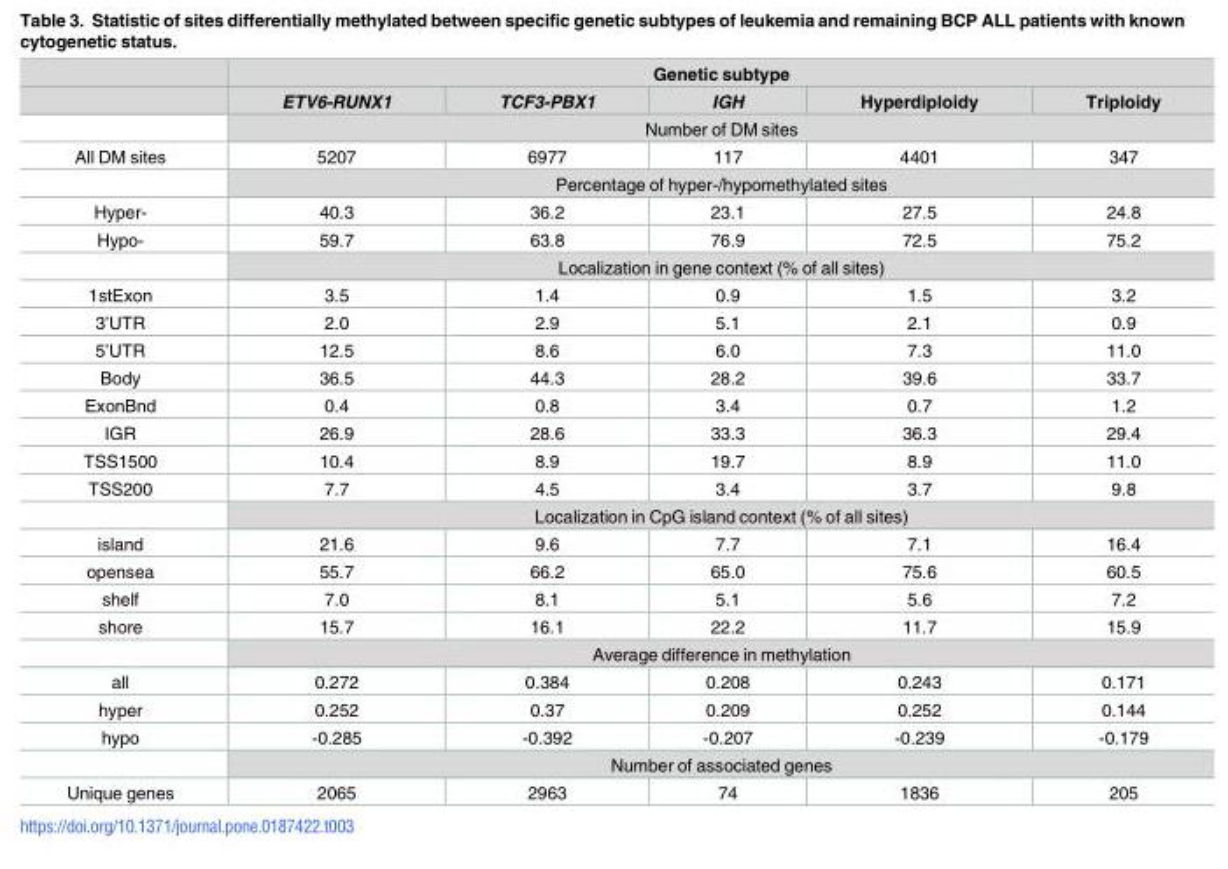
<table><thead><tr><td rowspan="2"></td><td colspan="5">Genetic subtype</td></tr><tr><td>ETV6-RUNX1</td><td>TCF3-PBX1</td><td>IGH</td><td>Hyperdiploidy</td><td>Triploidy</td></tr></thead><tbody><tr><td></td><td colspan="5">Number of DM sites</td></tr><tr><td rowspan="2">All DM sites</td><td>5207</td><td>6977</td><td>117</td><td>4401</td><td>347</td></tr><tr><td colspan="5">Percentage of hyper-/hypomethylated sites</td></tr><tr><td>Hyper-</td><td>40.3</td><td>36.2</td><td>23.1</td><td>27.5</td><td>24.8</td></tr><tr><td rowspan="2">Hypo-</td><td>59.7</td><td>63.8</td><td>76.9</td><td>72.5</td><td>75.2</td></tr><tr><td colspan="5">Localization in gene context (% of all sites)</td></tr><tr><td>1stExon</td><td>3.5</td><td>1.4</td><td>0.9</td><td>1.5</td><td>3.2</td></tr><tr><td>3’UTR</td><td>2.0</td><td>2.9</td><td>5.1</td><td>2.1</td><td>0.9</td></tr><tr><td>5’UTR</td><td>12.5</td><td>8.6</td><td>6.0</td><td>7.3</td><td>11.0</td></tr><tr><td>Body</td><td>36.5</td><td>44.3</td><td>28.2</td><td>39.6</td><td>33.7</td></tr><tr><td>ExonBnd</td><td>0.4</td><td>0.8</td><td>3.4</td><td>0.7</td><td>1.2</td></tr><tr><td>IGR</td><td>26.9</td><td>28.6</td><td>33.3</td><td>36.3</td><td>29.4</td></tr><tr><td>TSS1500</td><td>10.4</td><td>8.9</td><td>19.7</td><td>8.9</td><td>11.0</td></tr><tr><td rowspan="2">TSS200</td><td>7.7</td><td>4.5</td><td>3.4</td><td>3.7</td><td>9.8</td></tr><tr><td colspan="5">Localization in CpG island context (% of all sites)</td></tr><tr><td>island</td><td>21.6</td><td>9.6</td><td>7.7</td><td>7.1</td><td>16.4</td></tr><tr><td>opensea</td><td>55.7</td><td>66.2</td><td>65.0</td><td>75.6</td><td>60.5</td></tr><tr><td>shelf</td><td>7.0</td><td>8.1</td><td>5.1</td><td>5.6</td><td>7.2</td></tr><tr><td rowspan="2">shore</td><td>15.7</td><td>16.1</td><td>22.2</td><td>11.7</td><td>15.9</td></tr><tr><td colspan="5">Average difference in methylation</td></tr><tr><td>all</td><td>0.272</td><td>0.384</td><td>0.208</td><td>0.243</td><td>0.171</td></tr><tr><td>hyper</td><td>0.252</td><td>0.37</td><td>0.209</td><td>0.252</td><td>0.144</td></tr><tr><td rowspan="2">hypo</td><td>-0.285</td><td>-0.392</td><td>-0.207</td><td>-0.239</td><td>-0.179</td></tr><tr><td colspan="5">Number of associated genes</td></tr><tr><td>Unique genes</td><td>2065</td><td>2963</td><td>74</td><td>1836</td><td>205</td></tr></tbody></table>